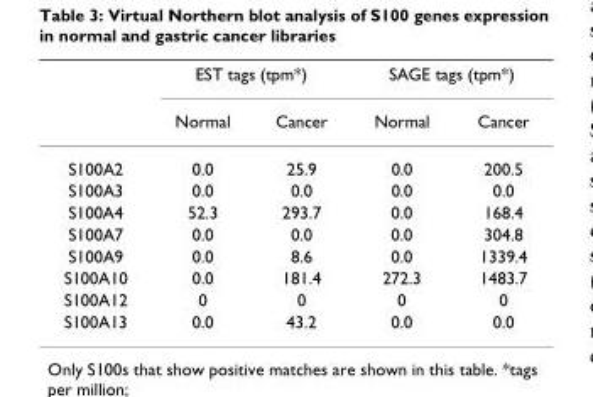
<table><thead><tr><td rowspan="2"></td><td colspan="2">EST tags (tpm*)</td><td colspan="2">SAGE tags (tpm*)</td></tr><tr><td>Normal</td><td>Cancer</td><td>Normal</td><td>Cancer</td></tr></thead><tbody><tr><td>S100A2</td><td>0.0</td><td>25.9</td><td>0.0</td><td>200.5</td></tr><tr><td>S100A3</td><td>0.0</td><td>0.0</td><td>0.0</td><td>0.0</td></tr><tr><td>S100A4</td><td>52.3</td><td>293.7</td><td>0.0</td><td>168.4</td></tr><tr><td>S100A7</td><td>0.0</td><td>0.0</td><td>0.0</td><td>304.8</td></tr><tr><td>S100A9</td><td>0.0</td><td>8.6</td><td>0.0</td><td>1339.4</td></tr><tr><td>S100A10</td><td>0.0</td><td>181.4</td><td>272.3</td><td>1483.7</td></tr><tr><td>S100A12</td><td>0</td><td>0</td><td>0</td><td>0</td></tr><tr><td>S100A13</td><td>0.0</td><td>43.2</td><td>0.0</td><td>0.0</td></tr></tbody></table>